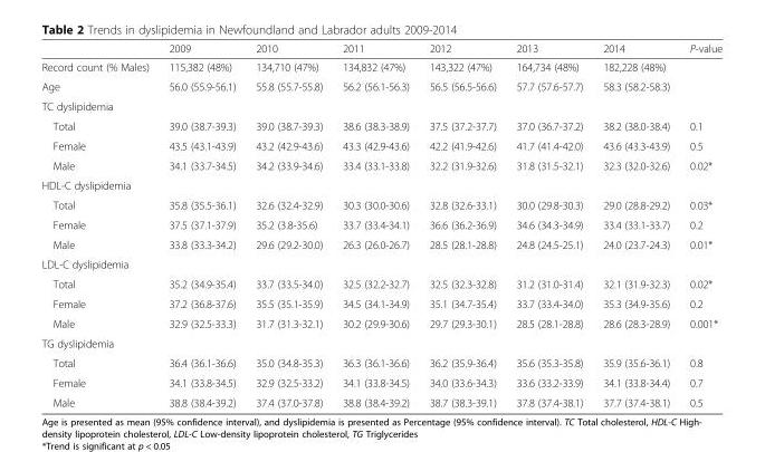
<table><thead><tr><td></td><td>2009</td><td>2010</td><td>2011</td><td>2012</td><td>2013</td><td>2014</td><td>P-value</td></tr></thead><tbody><tr><td>Record count (% Males)</td><td>115,382 (48%)</td><td>134,710 (47%)</td><td>134,832 (47%)</td><td>143,322 (47%)</td><td>164,734 (48%)</td><td>182,228 (48%)</td><td></td></tr><tr><td>Age</td><td>56.0 (55.9-56.1)</td><td>55.8 (55.7-55.8)</td><td>56.2 (56.1-56.3)</td><td>56.5 (56.5-56.6)</td><td>57.7 (57.6-57.7)</td><td>58.3 (58.2-58.3)</td><td></td></tr><tr><td colspan="8">TC dyslipidemia</td></tr><tr><td>Total</td><td>39.0 (38.7-39.3)</td><td>39.0 (38.7-39.3)</td><td>38.6 (38.3-38.9)</td><td>37.5 (37.2-37.7)</td><td>37.0 (36.7-37.2)</td><td>38.2 (38.0-38.4)</td><td>0.1</td></tr><tr><td>Female</td><td>43.5 (43.1-43.9)</td><td>43.2 (42.9-43.6)</td><td>43.3 (42.9-43.6)</td><td>42.2 (41.9-42.6)</td><td>41.7 (41.4-42.0)</td><td>43.6 (43.3-43.9)</td><td>0.5</td></tr><tr><td>Male</td><td>34.1 (33.7-34.5)</td><td>34.2 (33.9-34.6)</td><td>33.4 (33.1-33.8)</td><td>32.2 (31.9-32.6)</td><td>31.8 (31.5-32.1)</td><td>32.3 (32.0-32.6)</td><td>0.02*</td></tr><tr><td colspan="8">HDL-C dyslipidemia</td></tr><tr><td>Total</td><td>35.8 (35.5-36.1)</td><td>32.6 (32.4-32.9)</td><td>30.3 (30.0-30.6)</td><td>32.8 (32.6-33.1)</td><td>30.0 (29.8-30.3)</td><td>29.0 (28.8-29.2)</td><td>0.03*</td></tr><tr><td>Female</td><td>37.5 (37.1-37.9)</td><td>35.2 (3.8-35.6)</td><td>33.7 (33.4-34.1)</td><td>36.6 (36.2-36.9)</td><td>34.6 (34.3-34.9)</td><td>33.4 (33.1-33.7)</td><td>0.2</td></tr><tr><td>Male</td><td>33.8 (33.3-34.2)</td><td>29.6 (29.2-30.0)</td><td>26.3 (26.0-26.7)</td><td>28.5 (28.1-28.8)</td><td>24.8 (24.5-25.1)</td><td>24.0 (23.7-24.3)</td><td>0.01*</td></tr><tr><td colspan="8">LDL-C dyslipidemia</td></tr><tr><td>Total</td><td>35.2 (34.9-35.4)</td><td>33.7 (33.5-34.0)</td><td>32.5 (32.2-32.7)</td><td>32.5 (32.3-32.8)</td><td>31.2 (31.0-31.4)</td><td>32.1 (31.9-32.3)</td><td>0.02*</td></tr><tr><td>Female</td><td>37.2 (36.8-37.6)</td><td>35.5 (35.1-35.9)</td><td>34.5 (34.1-34.9)</td><td>35.1 (34.7-35.4)</td><td>33.7 (33.4-34.0)</td><td>35.3 (34.9-35.6)</td><td>0.2</td></tr><tr><td>Male</td><td>32.9 (32.5-33.3)</td><td>31.7 (31.3-32.1)</td><td>30.2 (29.9-30.6)</td><td>29.7 (29.3-30.1)</td><td>28.5 (28.1-28.8)</td><td>28.6 (28.3-28.9)</td><td>0.001*</td></tr><tr><td colspan="8">TG dyslipidemia</td></tr><tr><td>Total</td><td>36.4 (36.1-36.6)</td><td>35.0 (34.8-35.3)</td><td>36.3 (36.1-36.6)</td><td>36.2 (35.9-36.4)</td><td>35.6 (35.3-35.8)</td><td>35.9 (35.6-36.1)</td><td>0.8</td></tr><tr><td>Female</td><td>34.1 (33.8-34.5)</td><td>32.9 (32.5-33.2)</td><td>34.1 (33.8-34.5)</td><td>34.0 (33.6-34.3)</td><td>33.6 (33.2-33.9)</td><td>34.1 (33.8-34.4)</td><td>0.7</td></tr><tr><td>Male</td><td>38.8 (38.4-39.2)</td><td>37.4 (37.0-37.8)</td><td>38.8 (38.4-39.2)</td><td>38.7 (38.3-39.1)</td><td>37.8 (37.4-38.1)</td><td>37.7 (37.4-38.1)</td><td>0.5</td></tr></tbody></table>